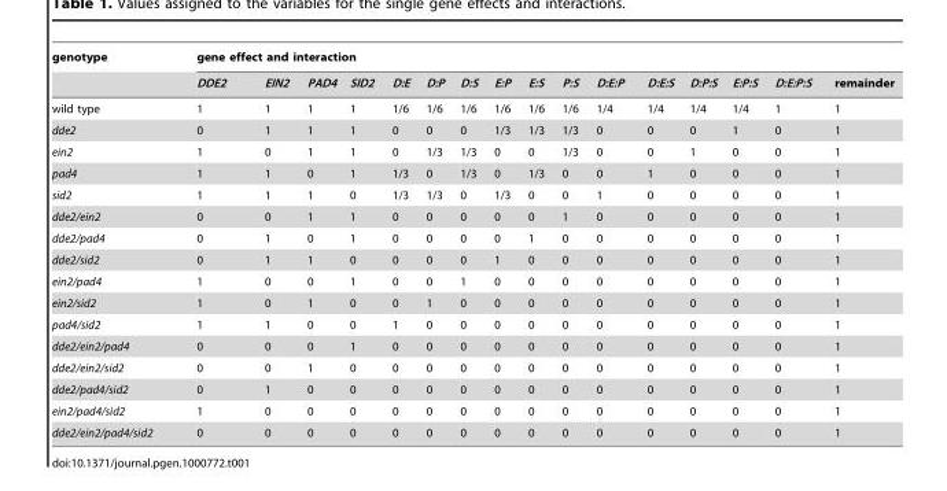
<table><thead><tr><td rowspan="2">genotype</td><td colspan="16">gene effect and interaction</td></tr><tr><td>DDE2</td><td>EIN2</td><td>PAD4</td><td>SID2</td><td>D:E</td><td>D:P</td><td>D:S</td><td>E:P</td><td>E:S</td><td>P:S</td><td>D:E:P</td><td>D:E:S</td><td>D:P:S</td><td>E:P:S</td><td>D:E:P:S</td><td>remainder</td></tr></thead><tbody><tr><td>wild type</td><td>1</td><td>1</td><td>1</td><td>1</td><td>1/6</td><td>1/6</td><td>1/6</td><td>1/6</td><td>1/6</td><td>1/6</td><td>1/4</td><td>1/4</td><td>1/4</td><td>1/4</td><td>1</td><td>1</td></tr><tr><td>dde2</td><td>0</td><td>1</td><td>1</td><td>1</td><td>0</td><td>0</td><td>0</td><td>1/3</td><td>1/3</td><td>1/3</td><td>0</td><td>0</td><td>0</td><td>1</td><td>0</td><td>1</td></tr><tr><td>ein2</td><td>1</td><td>0</td><td>1</td><td>1</td><td>0</td><td>1/3</td><td>1/3</td><td>0</td><td>0</td><td>1/3</td><td>0</td><td>0</td><td>1</td><td>0</td><td>0</td><td>1</td></tr><tr><td>pad4</td><td>1</td><td>1</td><td>0</td><td>1</td><td>1/3</td><td>0</td><td>1/3</td><td>0</td><td>1/3</td><td>0</td><td>0</td><td>1</td><td>0</td><td>0</td><td>0</td><td>1</td></tr><tr><td>sid2</td><td>1</td><td>1</td><td>1</td><td>0</td><td>1/3</td><td>1/3</td><td>0</td><td>1/3</td><td>0</td><td>0</td><td>1</td><td>0</td><td>0</td><td>0</td><td>0</td><td>1</td></tr><tr><td>dde2/ein2</td><td>0</td><td>0</td><td>1</td><td>1</td><td>0</td><td>0</td><td>0</td><td>0</td><td>0</td><td>1</td><td>0</td><td>0</td><td>0</td><td>0</td><td>0</td><td>1</td></tr><tr><td>dde2/pad4</td><td>0</td><td>1</td><td>0</td><td>1</td><td>0</td><td>0</td><td>0</td><td>0</td><td>1</td><td>0</td><td>0</td><td>0</td><td>0</td><td>0</td><td>0</td><td>1</td></tr><tr><td>dde2/sid2</td><td>0</td><td>1</td><td>1</td><td>0</td><td>0</td><td>0</td><td>0</td><td>1</td><td>0</td><td>0</td><td>0</td><td>0</td><td>0</td><td>0</td><td>0</td><td>1</td></tr><tr><td>ein2/pad4</td><td>1</td><td>0</td><td>0</td><td>1</td><td>0</td><td>0</td><td>1</td><td>0</td><td>0</td><td>0</td><td>0</td><td>0</td><td>0</td><td>0</td><td>0</td><td>1</td></tr><tr><td>ein2/sid2</td><td>1</td><td>0</td><td>1</td><td>0</td><td>0</td><td>1</td><td>0</td><td>0</td><td>0</td><td>0</td><td>0</td><td>0</td><td>0</td><td>0</td><td>0</td><td>1</td></tr><tr><td>pad4/sid2</td><td>1</td><td>1</td><td>0</td><td>0</td><td>1</td><td>0</td><td>0</td><td>0</td><td>0</td><td>0</td><td>0</td><td>0</td><td>0</td><td>0</td><td>0</td><td>1</td></tr><tr><td>dde2/ein2/pad4</td><td>0</td><td>0</td><td>0</td><td>1</td><td>0</td><td>0</td><td>0</td><td>0</td><td>0</td><td>0</td><td>0</td><td>0</td><td>0</td><td>0</td><td>0</td><td>1</td></tr><tr><td>dde2/ein2/sid2</td><td>0</td><td>0</td><td>1</td><td>0</td><td>0</td><td>0</td><td>0</td><td>0</td><td>0</td><td>0</td><td>0</td><td>0</td><td>0</td><td>0</td><td>0</td><td>1</td></tr><tr><td>dde2/pad4/sid2</td><td>0</td><td>1</td><td>0</td><td>0</td><td>0</td><td>0</td><td>0</td><td>0</td><td>0</td><td>0</td><td>0</td><td>0</td><td>0</td><td>0</td><td>0</td><td>1</td></tr><tr><td>ein2/pad4/sid2</td><td>1</td><td>0</td><td>0</td><td>0</td><td>0</td><td>0</td><td>0</td><td>0</td><td>0</td><td>0</td><td>0</td><td>0</td><td>0</td><td>0</td><td>0</td><td>1</td></tr><tr><td>dde2/ein2/pad4/sid2</td><td>0</td><td>0</td><td>0</td><td>0</td><td>0</td><td>0</td><td>0</td><td>0</td><td>0</td><td>0</td><td>0</td><td>0</td><td>0</td><td>0</td><td>0</td><td>1</td></tr></tbody></table>